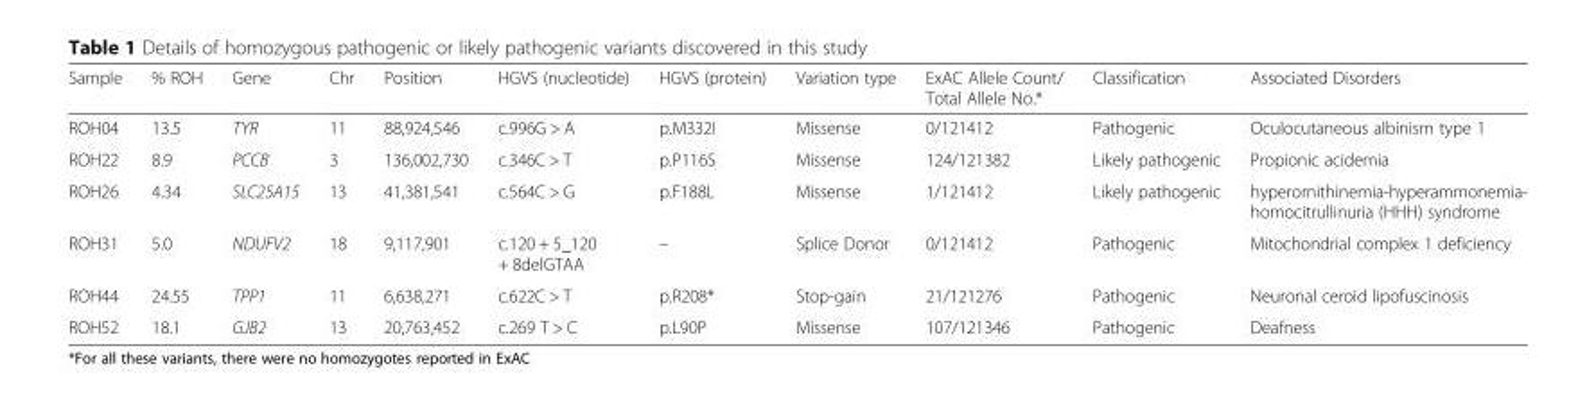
<table><thead><tr><td>Sample</td><td>% ROH</td><td>Gene</td><td>Chr</td><td>Position</td><td>HGVS (nucleotide)</td><td>HGVS (protein)</td><td>Variation type</td><td>ExAC Allele Count/ Total Allele No.*</td><td>Classification</td><td>Associated Disorders</td></tr></thead><tbody><tr><td>ROH04</td><td>13.5</td><td>TYR</td><td>11</td><td>88,924,546</td><td>c.996G &gt; A</td><td>p.M332I</td><td>Missense</td><td>0/121412</td><td>Pathogenic</td><td>Oculocutaneous albinism type 1</td></tr><tr><td>ROH22</td><td>8.9</td><td>PCCB</td><td>3</td><td>136,002,730</td><td>c.346C &gt; T</td><td>p.P116S</td><td>Missense</td><td>124/121382</td><td>Likely pathogenic</td><td>Propionic acidemia</td></tr><tr><td>ROH26</td><td>4.34</td><td>SLC25A15</td><td>13</td><td>41,381,541</td><td>c.564C &gt; G</td><td>p.F188L</td><td>Missense</td><td>1/121412</td><td>Likely pathogenic</td><td>hyperornithinemia-hyperammonemia- homocitrullinuria (HHH) syndrome</td></tr><tr><td>ROH31</td><td>5.0</td><td>NDUFV2</td><td>18</td><td>9,117,901</td><td>c.120 + 5_120 + 8delGTAA</td><td>–</td><td>Splice Donor</td><td>0/121412</td><td>Pathogenic</td><td>Mitochondrial complex 1 deficiency</td></tr><tr><td>ROH44</td><td>24.55</td><td>TPP1</td><td>11</td><td>6,638,271</td><td>c.622C &gt; T</td><td>p.R208*</td><td>Stop-gain</td><td>21/121276</td><td>Pathogenic</td><td>Neuronal ceroid lipofuscinosis</td></tr><tr><td>ROH52</td><td>18.1</td><td>GJB2</td><td>13</td><td>20,763,452</td><td>c.269 T &gt; C</td><td>p.L90P</td><td>Missense</td><td>107/121346</td><td>Pathogenic</td><td>Deafness</td></tr></tbody></table>